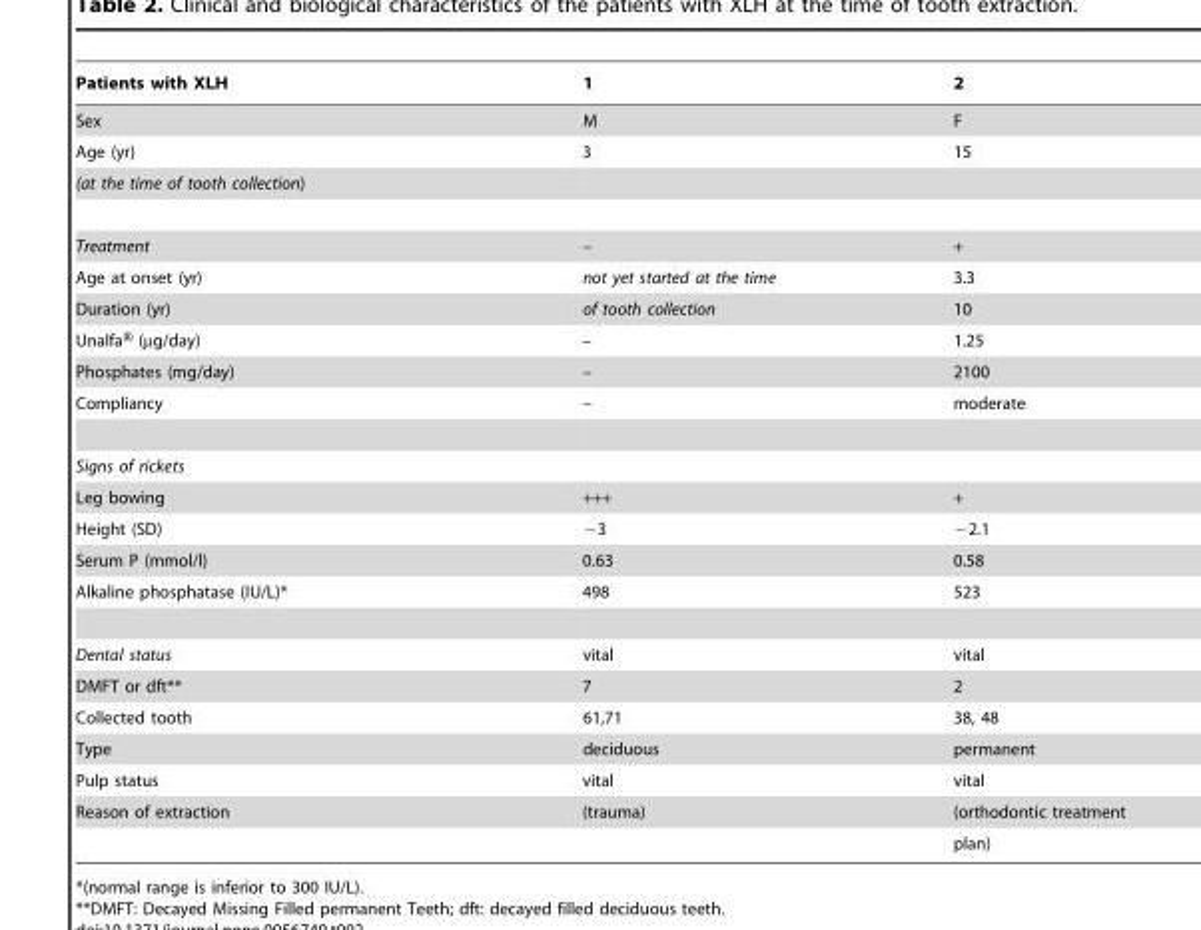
<table><thead><tr><td>Patients with XLH</td><td>1</td><td>2</td></tr></thead><tbody><tr><td>Sex</td><td>M</td><td>F</td></tr><tr><td>Age (yr)</td><td>3</td><td>15</td></tr><tr><td colspan="3">(at the time of tooth collection)</td></tr><tr><td>Treatment</td><td>–</td><td>+</td></tr><tr><td>Age at onset (yr)</td><td>not yet started at the time</td><td>3.3</td></tr><tr><td>Duration (yr)</td><td>of tooth collection</td><td>10</td></tr><tr><td>Unalfa® (µg/day)</td><td>–</td><td>1.25</td></tr><tr><td>Phosphates (mg/day)</td><td>–</td><td>2100</td></tr><tr><td>Compliancy</td><td>–</td><td>moderate</td></tr><tr><td colspan="3">Signs of rickets</td></tr><tr><td>Leg bowing</td><td>+++</td><td>+</td></tr><tr><td>Height (SD)</td><td>−3</td><td>−2.1</td></tr><tr><td>Serum P (mmol/l)</td><td>0.63</td><td>0.58</td></tr><tr><td>Alkaline phosphatase (IU/L)*</td><td>498</td><td>523</td></tr><tr><td>Dental status</td><td>vital</td><td>vital</td></tr><tr><td>DMFT or dft**</td><td>7</td><td>2</td></tr><tr><td>Collected tooth</td><td>61,71</td><td>38, 48</td></tr><tr><td>Type</td><td>deciduous</td><td>permanent</td></tr><tr><td>Pulp status</td><td>vital</td><td>vital</td></tr><tr><td rowspan="2">Reason of extraction</td><td>(trauma)</td><td>(orthodontic treatment</td></tr><tr><td></td><td>plan)</td></tr></tbody></table>